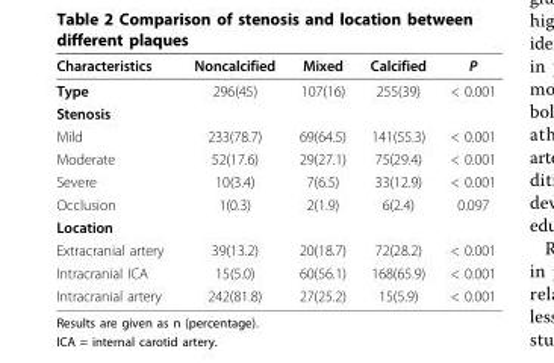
<table><thead><tr><td>Characteristics</td><td>Noncalcified</td><td>Mixed</td><td>Calcified</td><td>P</td></tr></thead><tbody><tr><td>Type</td><td>296(45)</td><td>107(16)</td><td>255(39)</td><td>&lt; 0.001</td></tr><tr><td colspan="5">Stenosis</td></tr><tr><td>Mild</td><td>233(78.7)</td><td>69(64.5)</td><td>141(55.3)</td><td>&lt; 0.001</td></tr><tr><td>Moderate</td><td>52(17.6)</td><td>29(27.1)</td><td>75(29.4)</td><td>&lt; 0.001</td></tr><tr><td>Severe</td><td>10(3.4)</td><td>7(6.5)</td><td>33(12.9)</td><td>&lt; 0.001</td></tr><tr><td>Occlusion</td><td>1(0.3)</td><td>2(1.9)</td><td>6(2.4)</td><td>0.097</td></tr><tr><td colspan="5">Location</td></tr><tr><td>Extracranial artery</td><td>39(13.2)</td><td>20(18.7)</td><td>72(28.2)</td><td>&lt; 0.001</td></tr><tr><td>Intracranial ICA</td><td>15(5.0)</td><td>60(56.1)</td><td>168(65.9)</td><td>&lt; 0.001</td></tr><tr><td>Intracranial artery</td><td>242(81.8)</td><td>27(25.2)</td><td>15(5.9)</td><td>&lt; 0.001</td></tr></tbody></table>